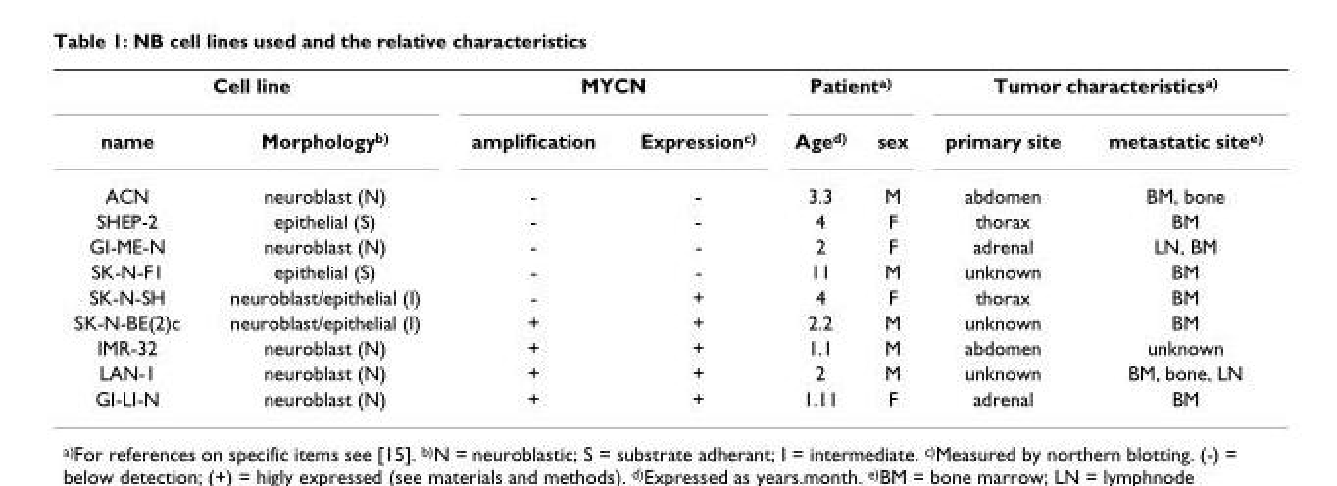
<table><tbody><tr><td colspan="2">Cell line</td><td colspan="2">MYCN</td><td colspan="2">Patient<sup>a)</sup></td><td colspan="2">Tumor characteristics<sup>a)</sup></td></tr><tr><td>name</td><td>Morphology<sup>b)</sup></td><td>amplification</td><td>Expression<sup>c)</sup></td><td>Age<sup>d)</sup></td><td>sex</td><td>primary site</td><td>metastatic site<sup>e)</sup></td></tr><tr><td>ACN</td><td>neuroblast (N)</td><td>-</td><td>-</td><td>3.3</td><td>M</td><td>abdomen</td><td>BM, bone</td></tr><tr><td>SHEP-2</td><td>epithelial (S)</td><td>-</td><td>-</td><td>4</td><td>F</td><td>thorax</td><td>BM</td></tr><tr><td>GI-ME-N</td><td>neuroblast (N)</td><td>-</td><td>-</td><td>2</td><td>F</td><td>adrenal</td><td>LN, BM</td></tr><tr><td>SK-N-F1</td><td>epithelial (S)</td><td>-</td><td>-</td><td>11</td><td>M</td><td>unknown</td><td>BM</td></tr><tr><td>SK-N-SH</td><td>neuroblast/epithelial (I)</td><td>-</td><td>+</td><td>4</td><td>F</td><td>thorax</td><td>BM</td></tr><tr><td>SK-N-BE(2)c</td><td>neuroblast/epithelial (I)</td><td>+</td><td>+</td><td>2.2</td><td>M</td><td>unknown</td><td>BM</td></tr><tr><td>IMR-32</td><td>neuroblast (N)</td><td>+</td><td>+</td><td>1.1</td><td>M</td><td>abdomen</td><td>unknown</td></tr><tr><td>LAN-1</td><td>neuroblast (N)</td><td>+</td><td>+</td><td>2</td><td>M</td><td>unknown</td><td>BM, bone, LN</td></tr><tr><td>GI-LI-N</td><td>neuroblast (N)</td><td>+</td><td>+</td><td>1.11</td><td>F</td><td>adrenal</td><td>BM</td></tr></tbody></table>